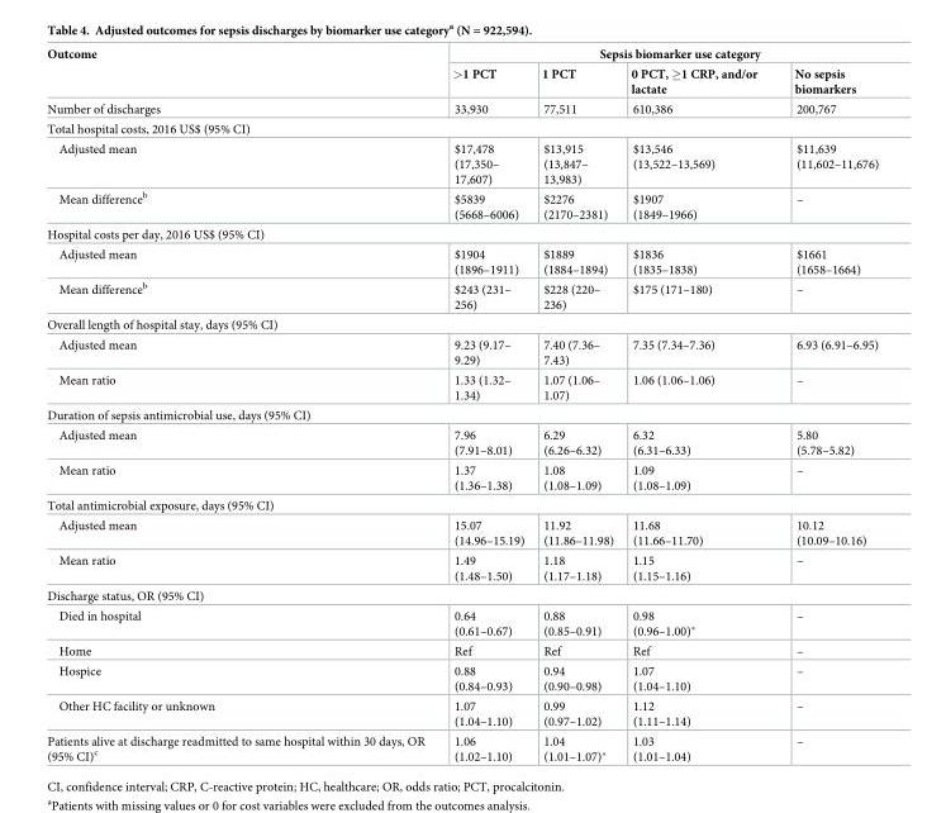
<table><thead><tr><td rowspan="2">Outcome</td><td colspan="4">Sepsis biomarker use category</td></tr><tr><td>&gt;1 PCT</td><td>1 PCT</td><td>0 PCT, ≥1 CRP, and/or lactate</td><td>No sepsis biomarkers</td></tr></thead><tbody><tr><td>Number of discharges</td><td>33,930</td><td>77,511</td><td>610,386</td><td>200,767</td></tr><tr><td colspan="5">Total hospital costs, 2016 US$ (95% CI)</td></tr><tr><td>Adjusted mean</td><td>$17,478 (17,350– 17,607)</td><td>$13,915 (13,847– 13,983)</td><td>$13,546 (13,522–13,569)</td><td>$11,639 (11,602–11,676)</td></tr><tr><td>Mean difference<sup>b</sup></td><td>$5839 (5668–6006)</td><td>$2276 (2170–2381)</td><td>$1907 (1849–1966)</td><td>–</td></tr><tr><td colspan="5">Hospital costs per day, 2016 US$ (95% CI)</td></tr><tr><td>Adjusted mean</td><td>$1904 (1896–1911)</td><td>$1889 (1884–1894)</td><td>$1836 (1835–1838)</td><td>$1661 (1658–1664)</td></tr><tr><td>Mean difference<sup>b</sup></td><td>$243 (231– 256)</td><td>$228 (220– 236)</td><td>$175 (171–180)</td><td>–</td></tr><tr><td colspan="5">Overall length of hospital stay, days (95% CI)</td></tr><tr><td>Adjusted mean</td><td>9.23 (9.17– 9.29)</td><td>7.40 (7.36– 7.43)</td><td>7.35 (7.34–7.36)</td><td>6.93 (6.91–6.95)</td></tr><tr><td>Mean ratio</td><td>1.33 (1.32– 1.34)</td><td>1.07 (1.06– 1.07)</td><td>1.06 (1.06–1.06)</td><td>–</td></tr><tr><td colspan="5">Duration of sepsis antimicrobial use, days (95% CI)</td></tr><tr><td>Adjusted mean</td><td>7.96 (7.91–8.01)</td><td>6.29 (6.26–6.32)</td><td>6.32 (6.31–6.33)</td><td>5.80 (5.78–5.82)</td></tr><tr><td>Mean ratio</td><td>1.37 (1.36–1.38)</td><td>1.08 (1.08–1.09)</td><td>1.09 (1.08–1.09)</td><td>–</td></tr><tr><td colspan="5">Total antimicrobial exposure, days (95% CI)</td></tr><tr><td>Adjusted mean</td><td>15.07 (14.96–15.19)</td><td>11.92 (11.86–11.98)</td><td>11.68 (11.66–11.70)</td><td>10.12 (10.09–10.16)</td></tr><tr><td>Mean ratio</td><td>1.49 (1.48–1.50)</td><td>1.18 (1.17–1.18)</td><td>1.15 (1.15–1.16)</td><td>–</td></tr><tr><td colspan="5">Discharge status, OR (95% CI)</td></tr><tr><td>Died in hospital</td><td>0.64 (0.61–0.67)</td><td>0.88 (0.85–0.91)</td><td>0.98 (0.96–1.00)*</td><td>–</td></tr><tr><td>Home</td><td>Ref</td><td>Ref</td><td>Ref</td><td>–</td></tr><tr><td>Hospice</td><td>0.88 (0.84–0.93)</td><td>0.94 (0.90–0.98)</td><td>1.07 (1.04–1.10)</td><td>–</td></tr><tr><td>Other HC facility or unknown</td><td>1.07 (1.04–1.10)</td><td>0.99 (0.97–1.02)</td><td>1.12 (1.11–1.14)</td><td>–</td></tr><tr><td>Patients alive at discharge readmitted to same hospital within 30 days, OR (95% CI)<sup>c</sup></td><td>1.06 (1.02–1.10)</td><td>1.04 (1.01–1.07)*</td><td>1.03 (1.01–1.04)</td><td>–</td></tr></tbody></table>